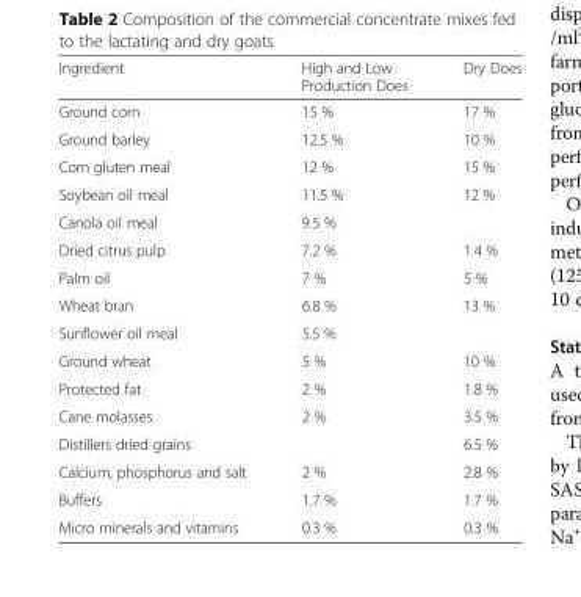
<table><thead><tr><td>Ingredient</td><td>High and Low Production Does</td><td>Dry Does</td></tr></thead><tbody><tr><td>Ground corn</td><td>15 %</td><td>17 %</td></tr><tr><td>Ground barley</td><td>12.5 %</td><td>10 %</td></tr><tr><td>Corn gluten meal</td><td>12 %</td><td>15 %</td></tr><tr><td>Soybean oil meal</td><td>11.5 %</td><td>12 %</td></tr><tr><td>Canola oil meal</td><td>9.5 %</td><td></td></tr><tr><td>Dried citrus pulp</td><td>7.2 %</td><td>1.4 %</td></tr><tr><td>Palm oil</td><td>7 %</td><td>5 %</td></tr><tr><td>Wheat bran</td><td>6.8 %</td><td>13 %</td></tr><tr><td>Sunflower oil meal</td><td>5.5 %</td><td></td></tr><tr><td>Ground wheat</td><td>5 %</td><td>10 %</td></tr><tr><td>Protected fat</td><td>2 %</td><td>1.8 %</td></tr><tr><td>Cane molasses</td><td>2 %</td><td>3.5 %</td></tr><tr><td>Distillers dried grains</td><td></td><td>6.5 %</td></tr><tr><td>Calcium, phosphorus and salt</td><td>2 %</td><td>2.8 %</td></tr><tr><td>Buffers</td><td>1.7 %</td><td>1.7 %</td></tr><tr><td>Micro minerals and vitamins</td><td>0.3 %</td><td>0.3 %</td></tr></tbody></table>